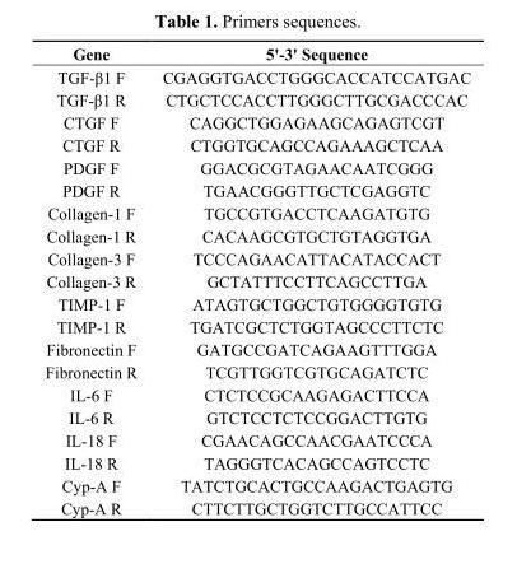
<table><thead><tr><td>Gene</td><td>5&#x27;-3&#x27; Sequence</td></tr></thead><tbody><tr><td>TGF-β1 F</td><td>CGAGGTGACCTGGGCACCATCCATGAC</td></tr><tr><td>TGF-β1 R</td><td>CTGCTCCACCTTGGGCTTGCGACCCAC</td></tr><tr><td>CTGF F</td><td>CAGGCTGGAGAAGCAGAGTCGT</td></tr><tr><td>CTGF R</td><td>CTGGTGCAGCCAGAAAGCTCAA</td></tr><tr><td>PDGF F</td><td>GGACGCGTAGAACAATCGGG</td></tr><tr><td>PDGF R</td><td>TGAACGGGTTGCTCGAGGTC</td></tr><tr><td>Collagen-1 F</td><td>TGCCGTGACCTCAAGATGTG</td></tr><tr><td>Collagen-1 R</td><td>CACAAGCGTGCTGTAGGTGA</td></tr><tr><td>Collagen-3 F</td><td>TCCCAGAACATTACATACCACT</td></tr><tr><td>Collagen-3 R</td><td>GCTATTTCCTTCAGCCTTGA</td></tr><tr><td>TIMP-1 F</td><td>ATAGTGCTGGCTGTGGGGTGTG</td></tr><tr><td>TIMP-1 R</td><td>TGATCGCTCTGGTAGCCCTTCTC</td></tr><tr><td>Fibronectin F</td><td>GATGCCGATCAGAAGTTTGGA</td></tr><tr><td>Fibronectin R</td><td>TCGTTGGTCGTGCAGATCTC</td></tr><tr><td>IL-6 F</td><td>CTCTCCGCAAGAGACTTCCA</td></tr><tr><td>IL-6 R</td><td>GTCTCCTCTCCGGACTTGTG</td></tr><tr><td>IL-18 F</td><td>CGAACAGCCAACGAATCCCA</td></tr><tr><td>IL-18 R</td><td>TAGGGTCACAGCCAGTCCTC</td></tr><tr><td>Cyp-A F</td><td>TATCTGCACTGCCAAGACTGAGTG</td></tr><tr><td>Cyp-A R</td><td>CTTCTTGCTGGTCTTGCCATTCC</td></tr></tbody></table>